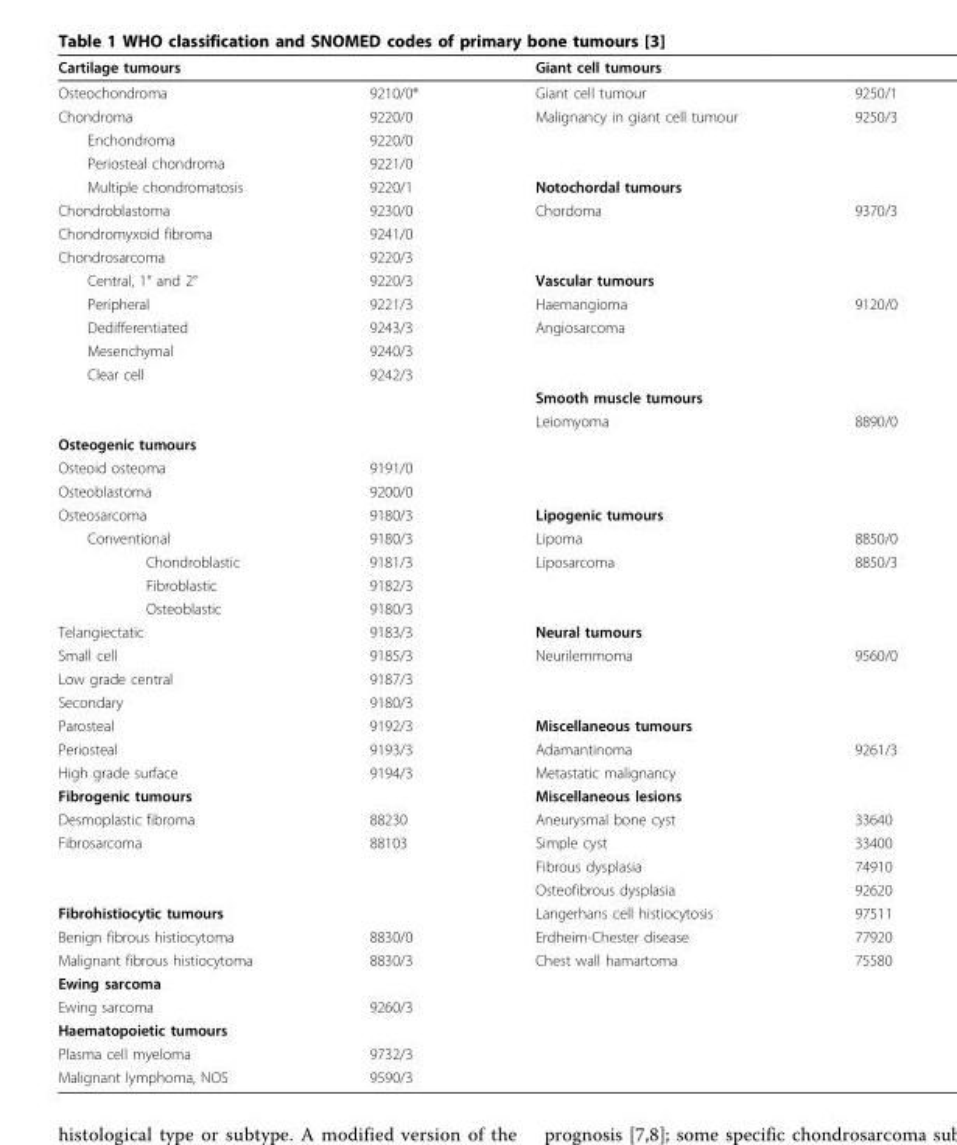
<table><thead><tr><td colspan="2">Cartilage tumours</td><td colspan="2">Giant cell tumours</td></tr><tr><td>Osteochondroma</td><td>9210/0*</td><td>Giant cell tumour</td><td>9250/1</td></tr></thead><tbody><tr><td>Chondroma</td><td>9220/0</td><td>Malignancy in giant cell tumour</td><td>9250/3</td></tr><tr><td>Enchondroma</td><td>9220/0</td><td></td><td></td></tr><tr><td>Periosteal chondroma</td><td>9221/0</td><td></td><td></td></tr><tr><td>Multiple chondromatosis</td><td>9220/1</td><td>Notochordal tumours</td><td></td></tr><tr><td>Chondroblastoma</td><td>9230/0</td><td>Chordoma</td><td>9370/3</td></tr><tr><td>Chondromyxoid fibroma</td><td>9241/0</td><td></td><td></td></tr><tr><td>Chondrosarcoma</td><td>9220/3</td><td></td><td></td></tr><tr><td>Central, 1° and 2°</td><td>9220/3</td><td>Vascular tumours</td><td></td></tr><tr><td>Peripheral</td><td>9221/3</td><td>Haemangioma</td><td>9120/0</td></tr><tr><td>Dedifferentiated</td><td>9243/3</td><td>Angiosarcoma</td><td></td></tr><tr><td>Mesenchymal</td><td>9240/3</td><td></td><td></td></tr><tr><td rowspan="3">Clear cell</td><td>9242/3</td><td></td><td></td></tr><tr><td></td><td>Smooth muscle tumours</td><td></td></tr><tr><td></td><td>Leiomyoma</td><td>8890/0</td></tr><tr><td colspan="4">Osteogenic tumours</td></tr><tr><td>Osteoid osteoma</td><td>9191/0</td><td></td><td></td></tr><tr><td>Osteoblastoma</td><td>9200/0</td><td></td><td></td></tr><tr><td>Osteosarcoma</td><td>9180/3</td><td>Lipogenic tumours</td><td></td></tr><tr><td>Conventional</td><td>9180/3</td><td>Lipoma</td><td>8850/0</td></tr><tr><td>Chondroblastic</td><td>9181/3</td><td>Liposarcoma</td><td>8850/3</td></tr><tr><td>Fibroblastic</td><td>9182/3</td><td></td><td></td></tr><tr><td>Osteoblastic</td><td>9180/3</td><td></td><td></td></tr><tr><td>Telangiectatic</td><td>9183/3</td><td>Neural tumours</td><td></td></tr><tr><td>Small cell</td><td>9185/3</td><td>Neurilemmoma</td><td>9560/0</td></tr><tr><td>Low grade central</td><td>9187/3</td><td></td><td></td></tr><tr><td>Secondary</td><td>9180/3</td><td></td><td></td></tr><tr><td>Parosteal</td><td>9192/3</td><td>Miscellaneous tumours</td><td></td></tr><tr><td>Periosteal</td><td>9193/3</td><td>Adamantinoma</td><td>9261/3</td></tr><tr><td>High grade surface</td><td>9194/3</td><td>Metastatic malignancy</td><td></td></tr><tr><td>Fibrogenic tumours</td><td></td><td>Miscellaneous lesions</td><td></td></tr><tr><td>Desmoplastic fibroma</td><td>88230</td><td>Aneurysmal bone cyst</td><td>33640</td></tr><tr><td rowspan="3">Fibrosarcoma</td><td>88103</td><td>Simple cyst</td><td>33400</td></tr><tr><td></td><td>Fibrous dysplasia</td><td>74910</td></tr><tr><td></td><td>Osteofibrous dysplasia</td><td>92620</td></tr><tr><td>Fibrohistiocytic tumours</td><td></td><td>Langerhans cell histiocytosis</td><td>97511</td></tr><tr><td>Benign fibrous histiocytoma</td><td>8830/0</td><td>Erdheim-Chester disease</td><td>77920</td></tr><tr><td>Malignant fibrous histiocytoma</td><td>8830/3</td><td>Chest wall hamartoma</td><td>75580</td></tr><tr><td colspan="4">Ewing sarcoma</td></tr><tr><td>Ewing sarcoma</td><td>9260/3</td><td></td><td></td></tr><tr><td colspan="4">Haematopoietic tumours</td></tr><tr><td>Plasma cell myeloma</td><td>9732/3</td><td></td><td></td></tr><tr><td>Malignant lymphoma, NOS</td><td>9590/3</td><td></td><td></td></tr></tbody></table>